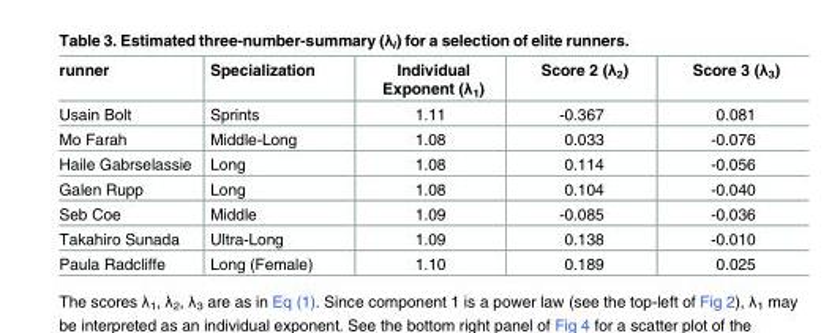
<table><thead><tr><td>runner</td><td>Specialization</td><td>Individual Exponent (λ<sub>1</sub>)</td><td>Score 2 (λ<sub>2</sub>)</td><td>Score 3 (λ<sub>3</sub>)</td></tr></thead><tbody><tr><td>Usain Bolt</td><td>Sprints</td><td>1.11</td><td>-0.367</td><td>0.081</td></tr><tr><td>Mo Farah</td><td>Middle-Long</td><td>1.08</td><td>0.033</td><td>-0.076</td></tr><tr><td>Haile Gabrselassie</td><td>Long</td><td>1.08</td><td>0.114</td><td>-0.056</td></tr><tr><td>Galen Rupp</td><td>Long</td><td>1.08</td><td>0.104</td><td>-0.040</td></tr><tr><td>Seb Coe</td><td>Middle</td><td>1.09</td><td>-0.085</td><td>-0.036</td></tr><tr><td>Takahiro Sunada</td><td>Ultra-Long</td><td>1.09</td><td>0.138</td><td>-0.010</td></tr><tr><td>Paula Radcliffe</td><td>Long (Female)</td><td>1.10</td><td>0.189</td><td>0.025</td></tr></tbody></table>